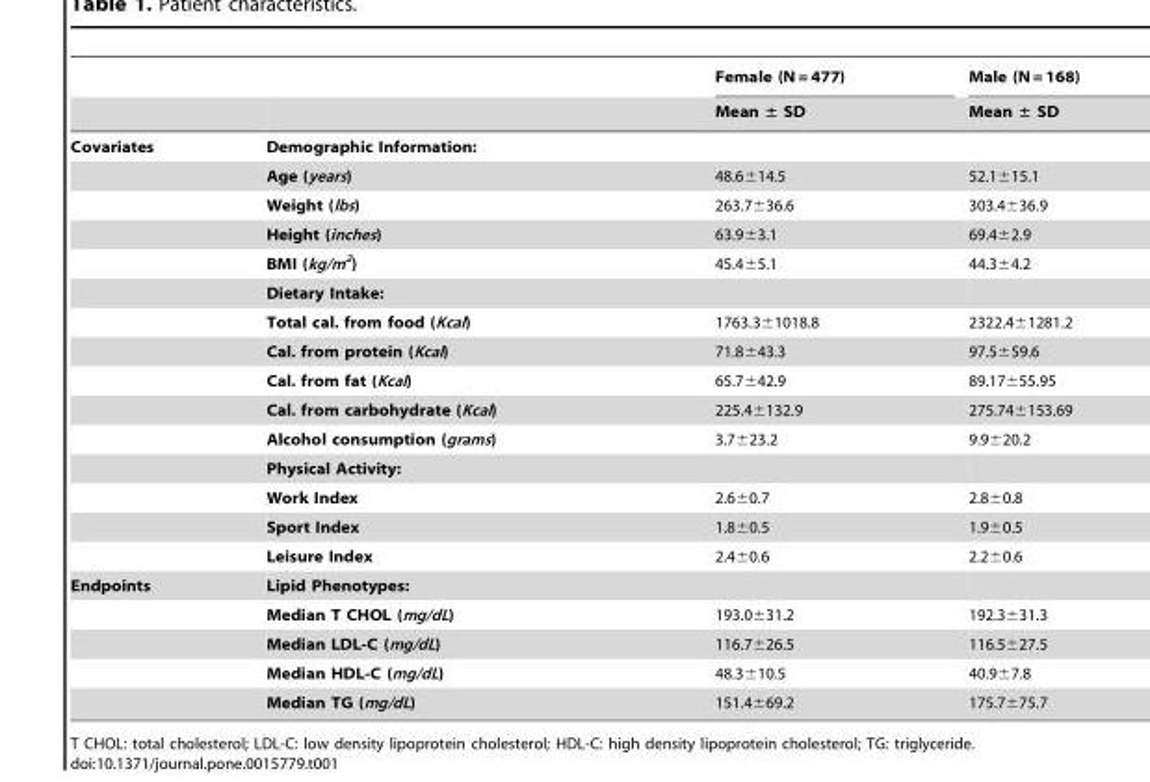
<table><thead><tr><td rowspan="2"></td><td rowspan="2"></td><td rowspan="2">Female (N = 477) Mean ± SD</td><td rowspan="2">Male (N = 168) Mean ± SD</td></tr><tr></tr></thead><tbody><tr><td rowspan="15">Covariates</td><td>Demographic Information:</td><td></td><td></td></tr><tr><td>Age (years)</td><td>48.6±14.5</td><td>52.1±15.1</td></tr><tr><td>Weight (lbs)</td><td>263.7±36.6</td><td>303.4±36.9</td></tr><tr><td>Height (inches)</td><td>63.9±3.1</td><td>69.4±2.9</td></tr><tr><td>BMI (kg/m<sup>2</sup>)</td><td>45.4±5.1</td><td>44.3±4.2</td></tr><tr><td>Dietary Intake:</td><td></td><td></td></tr><tr><td>Total cal. from food (Kcal)</td><td>1763.3±1018.8</td><td>2322.4±1281.2</td></tr><tr><td>Cal. from protein (Kcal)</td><td>71.8±43.3</td><td>97.5±59.6</td></tr><tr><td>Cal. from fat (Kcal)</td><td>65.7±42.9</td><td>89.17±55.95</td></tr><tr><td>Cal. from carbohydrate (Kcal)</td><td>225.4±132.9</td><td>275.74±153.69</td></tr><tr><td>Alcohol consumption (grams)</td><td>3.7±23.2</td><td>9.9±20.2</td></tr><tr><td>Physical Activity:</td><td></td><td></td></tr><tr><td>Work Index</td><td>2.6±0.7</td><td>2.8±0.8</td></tr><tr><td>Sport Index</td><td>1.8±0.5</td><td>1.9±0.5</td></tr><tr><td>Leisure Index</td><td>2.4±0.6</td><td>2.2±0.6</td></tr><tr><td rowspan="5">Endpoints</td><td>Lipid Phenotypes:</td><td></td><td></td></tr><tr><td>Median T CHOL (mg/dL)</td><td>193.0±31.2</td><td>192.3±31.3</td></tr><tr><td>Median LDL-C (mg/dL)</td><td>116.7±26.5</td><td>116.5±27.5</td></tr><tr><td>Median HDL-C (mg/dL)</td><td>48.3±10.5</td><td>40.9±7.8</td></tr><tr><td>Median TG (mg/dL)</td><td>151.4±69.2</td><td>175.7±75.7</td></tr></tbody></table>